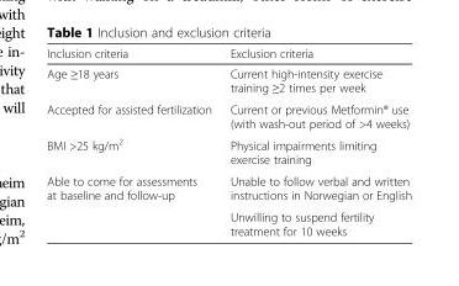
<table><thead><tr><td>Inclusion criteria</td><td>Exclusion criteria</td></tr></thead><tbody><tr><td>Age ≥18 years</td><td>Current high-intensity exercise training ≥2 times per week</td></tr><tr><td>Accepted for assisted fertilization</td><td>Current or previous Metformin® use (with wash-out period of &gt;4 weeks)</td></tr><tr><td>BMI &gt;25 kg/m<sup>2</sup></td><td>Physical impairments limiting exercise training</td></tr><tr><td rowspan="2">Able to come for assessments at baseline and follow-up</td><td>Unable to follow verbal and written instructions in Norwegian or English</td></tr><tr><td>Unwilling to suspend fertility treatment for 10 weeks</td></tr></tbody></table>